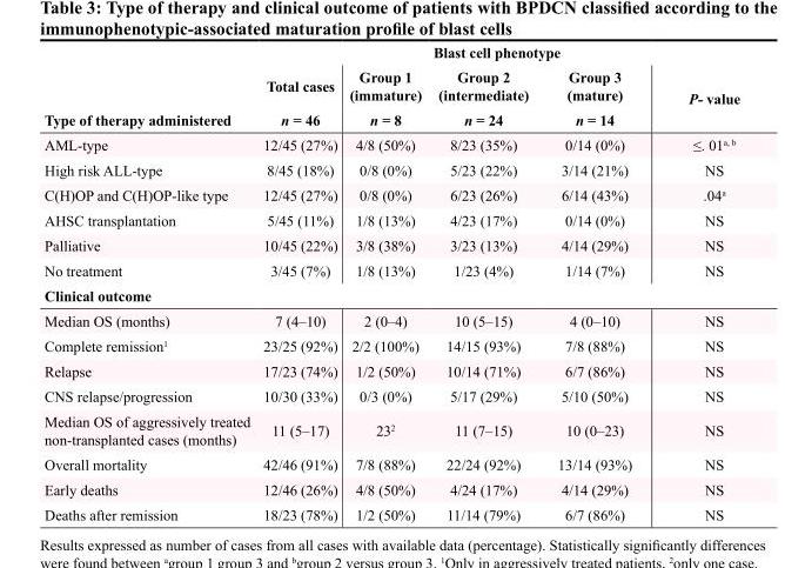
<table><thead><tr><td rowspan="3">Type of therapy administered</td><td colspan="5">Blast cell phenotype</td></tr><tr><td rowspan="2">Total cases n = 46</td><td rowspan="2">Group 1 (immature) n = 8</td><td rowspan="2">Group 2 (intermediate) n = 24</td><td rowspan="2">Group 3 (mature) n = 14</td><td rowspan="2">P- value</td></tr><tr></tr></thead><tbody><tr><td>AML-type</td><td>12/45 (27%)</td><td>4/8 (50%)</td><td>8/23 (35%)</td><td>0/14 (0%)</td><td>≤. 01<sup>a, b</sup></td></tr><tr><td>High risk ALL-type</td><td>8/45 (18%)</td><td>0/8 (0%)</td><td>5/23 (22%)</td><td>3/14 (21%)</td><td>NS</td></tr><tr><td>C(H)OP and C(H)OP-like type</td><td>12/45 (27%)</td><td>0/8 (0%)</td><td>6/23 (26%)</td><td>6/14 (43%)</td><td>.04<sup>a</sup></td></tr><tr><td>AHSC transplantation</td><td>5/45 (11%)</td><td>1/8 (13%)</td><td>4/23 (17%)</td><td>0/14 (0%)</td><td>NS</td></tr><tr><td>Palliative</td><td>10/45 (22%)</td><td>3/8 (38%)</td><td>3/23 (13%)</td><td>4/14 (29%)</td><td>NS</td></tr><tr><td>No treatment</td><td>3/45 (7%)</td><td>1/8 (13%)</td><td>1/23 (4%)</td><td>1/14 (7%)</td><td>NS</td></tr><tr><td colspan="6">Clinical outcome</td></tr><tr><td>Median OS (months)</td><td>7 (4–10)</td><td>2 (0–4)</td><td>10 (5–15)</td><td>4 (0–10)</td><td>NS</td></tr><tr><td>Complete remission<sup>1</sup></td><td>23/25 (92%)</td><td>2/2 (100%)</td><td>14/15 (93%)</td><td>7/8 (88%)</td><td>NS</td></tr><tr><td>Relapse</td><td>17/23 (74%)</td><td>1/2 (50%)</td><td>10/14 (71%)</td><td>6/7 (86%)</td><td>NS</td></tr><tr><td>CNS relapse/progression</td><td>10/30 (33%)</td><td>0/3 (0%)</td><td>5/17 (29%)</td><td>5/10 (50%)</td><td>NS</td></tr><tr><td>Median OS of aggressively treated non-transplanted cases (months)</td><td>11 (5–17)</td><td>23<sup>2</sup></td><td>11 (7–15)</td><td>10 (0–23)</td><td>NS</td></tr><tr><td>Overall mortality</td><td>42/46 (91%)</td><td>7/8 (88%)</td><td>22/24 (92%)</td><td>13/14 (93%)</td><td>NS</td></tr><tr><td>Early deaths</td><td>12/46 (26%)</td><td>4/8 (50%)</td><td>4/24 (17%)</td><td>4/14 (29%)</td><td>NS</td></tr><tr><td>Deaths after remission</td><td>18/23 (78%)</td><td>1/2 (50%)</td><td>11/14 (79%)</td><td>6/7 (86%)</td><td>NS</td></tr></tbody></table>